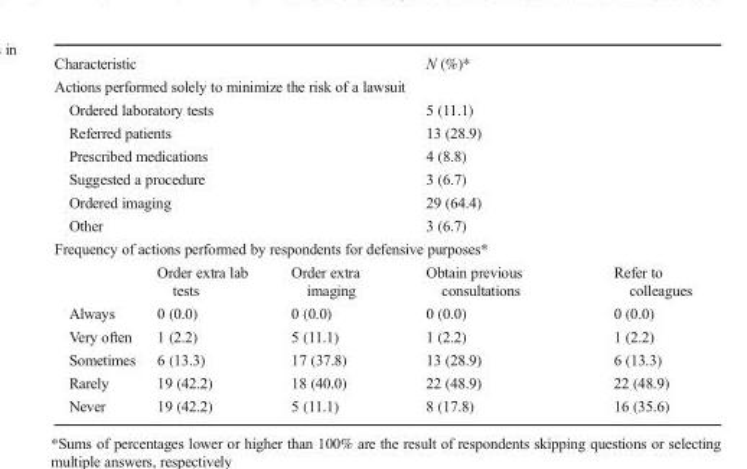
<table><tbody><tr><td colspan="3">Characteristic</td><td colspan="2">N (%)*</td></tr><tr><td colspan="5">Actions performed solely to minimize the risk of a lawsuit</td></tr><tr><td colspan="3">Ordered laboratory tests</td><td colspan="2">5 (11.1)</td></tr><tr><td colspan="3">Referred patients</td><td colspan="2">13 (28.9)</td></tr><tr><td colspan="3">Prescribed medications</td><td colspan="2">4 (8.8)</td></tr><tr><td colspan="3">Suggested a procedure</td><td colspan="2">3 (6.7)</td></tr><tr><td colspan="3">Ordered imaging</td><td colspan="2">29 (64.4)</td></tr><tr><td colspan="3">Other</td><td colspan="2">3 (6.7)</td></tr><tr><td colspan="5">Frequency of actions performed by respondents for defensive purposes*</td></tr><tr><td></td><td>Order extra lab tests</td><td>Order extra imaging</td><td>Obtain previous consultations</td><td>Refer to colleagues</td></tr><tr><td>Always</td><td>0 (0.0)</td><td>0 (0.0)</td><td>0 (0.0)</td><td>0 (0.0)</td></tr><tr><td>Very often</td><td>1 (2.2)</td><td>5 (11.1)</td><td>1 (2.2)</td><td>1 (2.2)</td></tr><tr><td>Sometimes</td><td>6 (13.3)</td><td>17 (37.8)</td><td>13 (28.9)</td><td>6 (13.3)</td></tr><tr><td>Rarely</td><td>19 (42.2)</td><td>18 (40.0)</td><td>22 (48.9)</td><td>22 (48.9)</td></tr><tr><td>Never</td><td>19 (42.2)</td><td>5 (11.1)</td><td>8 (17.8)</td><td>16 (35.6)</td></tr></tbody></table>